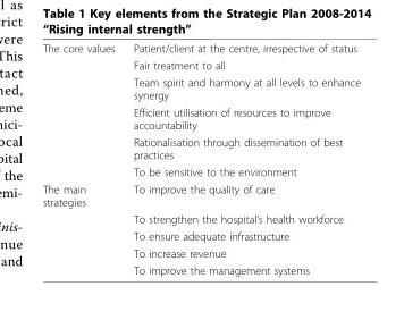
<table><tbody><tr><td rowspan="6">The core values</td><td>Patient/client at the centre, irrespective of status</td></tr><tr><td>Fair treatment to all</td></tr><tr><td>Team spirit and harmony at all levels to enhance synergy</td></tr><tr><td>Efficient utilisation of resources to improve accountability</td></tr><tr><td>Rationalisation through dissemination of best practices</td></tr><tr><td>To be sensitive to the environment</td></tr><tr><td rowspan="5">The main strategies</td><td>To improve the quality of care</td></tr><tr><td>To strengthen the hospital’s health workforce</td></tr><tr><td>To ensure adequate infrastructure</td></tr><tr><td>To increase revenue</td></tr><tr><td>To improve the management systems</td></tr></tbody></table>